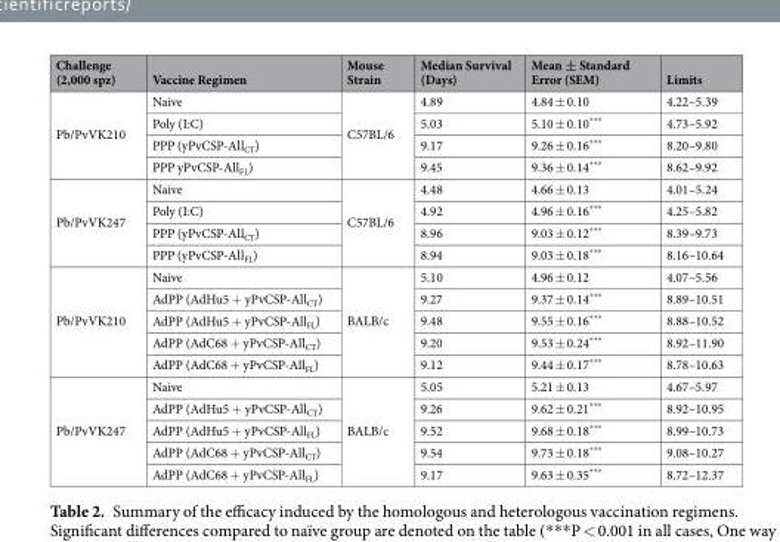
<table><thead><tr><td>Challenge (2,000 spz)</td><td>Vaccine Regimen</td><td>Mouse Strain</td><td>Median Survival (Days)</td><td>Mean ± Standard Error (SEM)</td><td>Limits</td></tr></thead><tbody><tr><td rowspan="4">Pb/PvVK210</td><td>Naive</td><td rowspan="4">C57BL/6</td><td>4.89</td><td>4.84 ± 0.10</td><td>4.22–5.39</td></tr><tr><td>Poly (I:C)</td><td>5.03</td><td>5.10 ± 0.10***</td><td>4.73–5.92</td></tr><tr><td>PPP (yPvCSP-All<sub>CT</sub>)</td><td>9.17</td><td>9.26 ± 0.16***</td><td>8.20–9.80</td></tr><tr><td>PPP yPvCSP-All<sub>FL</sub>)</td><td>9.45</td><td>9.36 ± 0.14***</td><td>8.62–9.92</td></tr><tr><td rowspan="4">Pb/PvVK247</td><td>Naive</td><td rowspan="4">C57BL/6</td><td>4.48</td><td>4.66 ± 0.13</td><td>4.01–5.24</td></tr><tr><td>Poly (I:C)</td><td>4.92</td><td>4.96 ± 0.16***</td><td>4.25–5.82</td></tr><tr><td>PPP (yPvCSP-All<sub>CT</sub>)</td><td>8.96</td><td>9.03 ± 0.12***</td><td>8.39–9.73</td></tr><tr><td>PPP (yPvCSP-All<sub>FL</sub>)</td><td>8.94</td><td>9.03 ± 0.18***</td><td>8.16–10.64</td></tr><tr><td rowspan="5">Pb/PvVK210</td><td>Naive</td><td rowspan="5">BALB/c</td><td>5.10</td><td>4.96 ± 0.12</td><td>4.07–5.56</td></tr><tr><td>AdPP (AdHu5 + yPvCSP-All<sub>CT</sub>)</td><td>9.27</td><td>9.37 ± 0.14***</td><td>8.89–10.51</td></tr><tr><td>AdPP (AdHu5 + yPvCSP-All<sub>FL</sub>)</td><td>9.48</td><td>9.55 ± 0.16***</td><td>8.88–10.52</td></tr><tr><td>AdPP (AdC68 + yPvCSP-All<sub>CT</sub>)</td><td>9.20</td><td>9.53 ± 0.24***</td><td>8.92–11.90</td></tr><tr><td>AdPP (AdC68 + yPvCSP-All<sub>FL</sub>)</td><td>9.12</td><td>9.44 ± 0.17***</td><td>8.78–10.63</td></tr><tr><td rowspan="5">Pb/PvVK247</td><td>Naive</td><td rowspan="5">BALB/c</td><td>5.05</td><td>5.21 ± 0.13</td><td>4.67–5.97</td></tr><tr><td>AdPP (AdHu5 + yPvCSP-All<sub>CT</sub>)</td><td>9.26</td><td>9.62 ± 0.21***</td><td>8.92–10.95</td></tr><tr><td>AdPP (AdHu5 + yPvCSP-All<sub>FL</sub>)</td><td>9.52</td><td>9.68 ± 0.18***</td><td>8.99–10.73</td></tr><tr><td>AdPP (AdC68 + yPvCSP-All<sub>CT</sub>)</td><td>9.54</td><td>9.73 ± 0.18***</td><td>9.08–10.27</td></tr><tr><td>AdPP (AdC68 + yPvCSP-All<sub>FL</sub>)</td><td>9.17</td><td>9.63 ± 0.35***</td><td>8.72–12.37</td></tr></tbody></table>